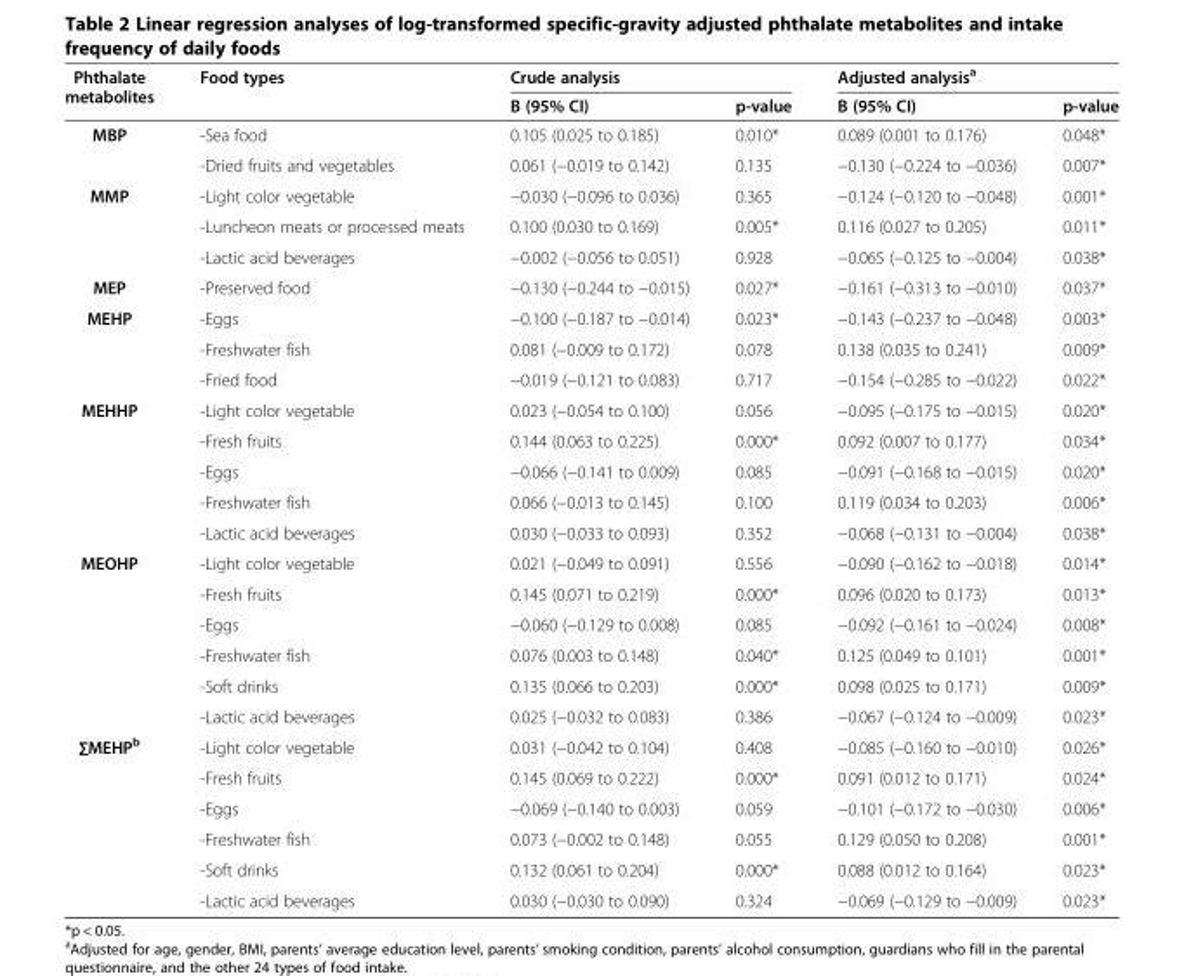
<table><thead><tr><td rowspan="2">Phthalate metabolites</td><td rowspan="2">Food types</td><td colspan="2">Crude analysis</td><td colspan="2">Adjusted analysis<sup>a</sup></td></tr><tr><td>B (95% CI)</td><td>p-value</td><td>B (95% CI)</td><td>p-value</td></tr></thead><tbody><tr><td rowspan="2">MBP</td><td>-Sea food</td><td>0.105 (0.025 to 0.185)</td><td>0.010*</td><td>0.089 (0.001 to 0.176)</td><td>0.048*</td></tr><tr><td>-Dried fruits and vegetables</td><td>0.061 (−0.019 to 0.142)</td><td>0.135</td><td>−0.130 (−0.224 to −0.036)</td><td>0.007*</td></tr><tr><td rowspan="3">MMP</td><td>-Light color vegetable</td><td>−0.030 (−0.096 to 0.036)</td><td>0.365</td><td>−0.124 (−0.120 to −0.048)</td><td>0.001*</td></tr><tr><td>-Luncheon meats or processed meats</td><td>0.100 (0.030 to 0.169)</td><td>0.005*</td><td>0.116 (0.027 to 0.205)</td><td>0.011*</td></tr><tr><td>-Lactic acid beverages</td><td>−0.002 (−0.056 to 0.051)</td><td>0.928</td><td>−0.065 (−0.125 to −0.004)</td><td>0.038*</td></tr><tr><td>MEP</td><td>-Preserved food</td><td>−0.130 (−0.244 to −0.015)</td><td>0.027*</td><td>−0.161 (−0.313 to −0.010)</td><td>0.037*</td></tr><tr><td rowspan="3">MEHP</td><td>-Eggs</td><td>−0.100 (−0.187 to −0.014)</td><td>0.023*</td><td>−0.143 (−0.237 to −0.048)</td><td>0.003*</td></tr><tr><td>-Freshwater fish</td><td>0.081 (−0.009 to 0.172)</td><td>0.078</td><td>0.138 (0.035 to 0.241)</td><td>0.009*</td></tr><tr><td>-Fried food</td><td>−0.019 (−0.121 to 0.083)</td><td>0.717</td><td>−0.154 (−0.285 to −0.022)</td><td>0.022*</td></tr><tr><td rowspan="5">MEHHP</td><td>-Light color vegetable</td><td>0.023 (−0.054 to 0.100)</td><td>0.056</td><td>−0.095 (−0.175 to −0.015)</td><td>0.020*</td></tr><tr><td>-Fresh fruits</td><td>0.144 (0.063 to 0.225)</td><td>0.000*</td><td>0.092 (0.007 to 0.177)</td><td>0.034*</td></tr><tr><td>-Eggs</td><td>−0.066 (−0.141 to 0.009)</td><td>0.085</td><td>−0.091 (−0.168 to −0.015)</td><td>0.020*</td></tr><tr><td>-Freshwater fish</td><td>0.066 (−0.013 to 0.145)</td><td>0.100</td><td>0.119 (0.034 to 0.203)</td><td>0.006*</td></tr><tr><td>-Lactic acid beverages</td><td>0.030 (−0.033 to 0.093)</td><td>0.352</td><td>−0.068 (−0.131 to −0.004)</td><td>0.038*</td></tr><tr><td rowspan="6">MEOHP</td><td>-Light color vegetable</td><td>0.021 (−0.049 to 0.091)</td><td>0.556</td><td>−0.090 (−0.162 to −0.018)</td><td>0.014*</td></tr><tr><td>-Fresh fruits</td><td>0.145 (0.071 to 0.219)</td><td>0.000*</td><td>0.096 (0.020 to 0.173)</td><td>0.013*</td></tr><tr><td>-Eggs</td><td>−0.060 (−0.129 to 0.008)</td><td>0.085</td><td>−0.092 (−0.161 to −0.024)</td><td>0.008*</td></tr><tr><td>-Freshwater fish</td><td>0.076 (0.003 to 0.148)</td><td>0.040*</td><td>0.125 (0.049 to 0.101)</td><td>0.001*</td></tr><tr><td>-Soft drinks</td><td>0.135 (0.066 to 0.203)</td><td>0.000*</td><td>0.098 (0.025 to 0.171)</td><td>0.009*</td></tr><tr><td>-Lactic acid beverages</td><td>0.025 (−0.032 to 0.083)</td><td>0.386</td><td>−0.067 (−0.124 to −0.009)</td><td>0.023*</td></tr><tr><td rowspan="6">∑MEHP<sup>b</sup></td><td>-Light color vegetable</td><td>0.031 (−0.042 to 0.104)</td><td>0.408</td><td>−0.085 (−0.160 to −0.010)</td><td>0.026*</td></tr><tr><td>-Fresh fruits</td><td>0.145 (0.069 to 0.222)</td><td>0.000*</td><td>0.091 (0.012 to 0.171)</td><td>0.024*</td></tr><tr><td>-Eggs</td><td>−0.069 (−0.140 to 0.003)</td><td>0.059</td><td>−0.101 (−0.172 to −0.030)</td><td>0.006*</td></tr><tr><td>-Freshwater fish</td><td>0.073 (−0.002 to 0.148)</td><td>0.055</td><td>0.129 (0.050 to 0.208)</td><td>0.001*</td></tr><tr><td>-Soft drinks</td><td>0.132 (0.061 to 0.204)</td><td>0.000*</td><td>0.088 (0.012 to 0.164)</td><td>0.023*</td></tr><tr><td>-Lactic acid beverages</td><td>0.030 (−0.030 to 0.090)</td><td>0.324</td><td>−0.069 (−0.129 to −0.009)</td><td>0.023*</td></tr></tbody></table>